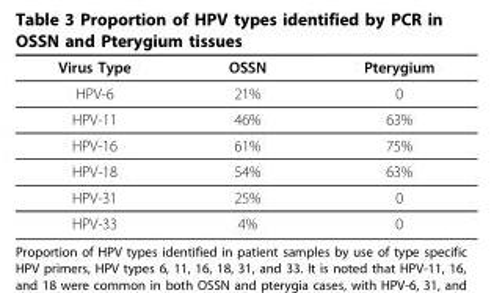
<table><thead><tr><td>Virus Type</td><td>OSSN</td><td>Pterygium</td></tr></thead><tbody><tr><td>HPV-6</td><td>21%</td><td>0</td></tr><tr><td>HPV-11</td><td>46%</td><td>63%</td></tr><tr><td>HPV-16</td><td>61%</td><td>75%</td></tr><tr><td>HPV-18</td><td>54%</td><td>63%</td></tr><tr><td>HPV-31</td><td>25%</td><td>0</td></tr><tr><td>HPV-33</td><td>4%</td><td>0</td></tr></tbody></table>